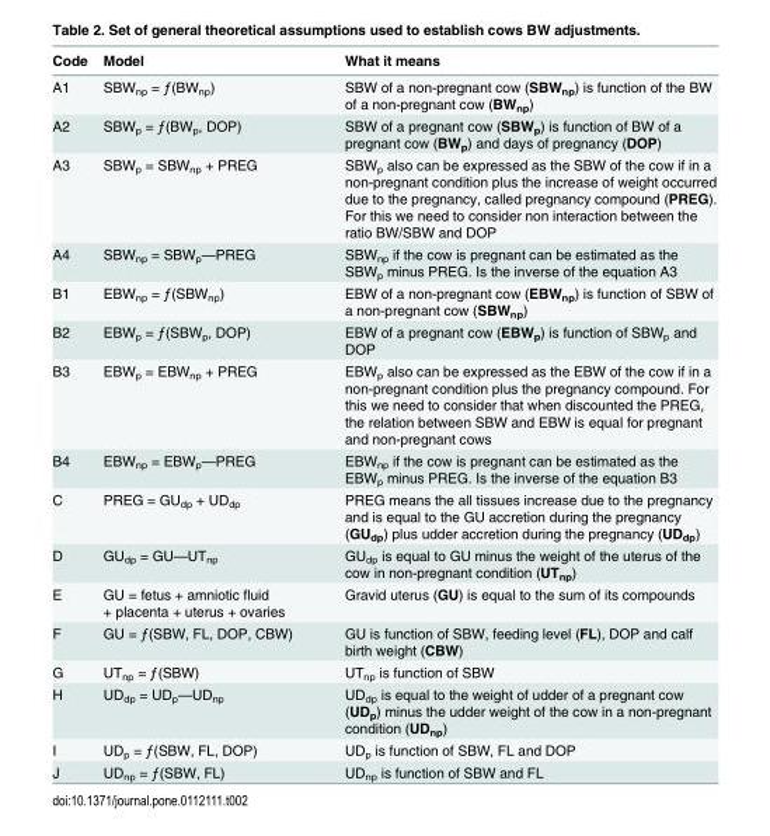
<table><thead><tr><td>Code</td><td>Model</td><td>What it means</td></tr></thead><tbody><tr><td>A1</td><td>SBW<sub>np</sub> = ƒ(BW<sub>np</sub>)</td><td>SBW of a non-pregnant cow (SBW<sub>np</sub>) is function of the BW of a non-pregnant cow (BW<sub>np</sub>)</td></tr><tr><td>A2</td><td>SBW<sub>p</sub> = ƒ(BW<sub>p</sub>, DOP)</td><td>SBW of a pregnant cow (SBW<sub>p</sub>) is function of BW of a pregnant cow (BW<sub>p</sub>) and days of pregnancy (DOP)</td></tr><tr><td>A3</td><td>SBW<sub>p</sub> = SBW<sub>np</sub> + PREG</td><td>SBW<sub>p</sub> also can be expressed as the SBW of the cow if in a non-pregnant condition plus the increase of weight occurred due to the pregnancy, called pregnancy compound (PREG). For this we need to consider non interaction between the ratio BW/SBW and DOP</td></tr><tr><td>A4</td><td>SBW<sub>np</sub> = SBW<sub>p</sub>—PREG</td><td>SBW<sub>np</sub> if the cow is pregnant can be estimated as the SBW<sub>p</sub> minus PREG. Is the inverse of the equation A3</td></tr><tr><td>B1</td><td>EBW<sub>np</sub> = ƒ(SBW<sub>np</sub>)</td><td>EBW of a non-pregnant cow (EBW<sub>np</sub>) is function of SBW of a non-pregnant cow (SBW<sub>np</sub>)</td></tr><tr><td>B2</td><td>EBW<sub>p</sub> = ƒ(SBW<sub>p</sub>, DOP)</td><td>EBW of a pregnant cow (EBW<sub>p</sub>) is function of SBW<sub>p</sub> and DOP</td></tr><tr><td>B3</td><td>EBW<sub>p</sub> = EBW<sub>np</sub> + PREG</td><td>EBW<sub>p</sub> also can be expressed as the EBW of the cow if in a non-pregnant condition plus the pregnancy compound. For this we need to consider that when discounted the PREG, the relation between SBW and EBW is equal for pregnant and non-pregnant cows</td></tr><tr><td>B4</td><td>EBW<sub>np</sub> = EBW<sub>p</sub>—PREG</td><td>EBW<sub>np</sub> if the cow is pregnant can be estimated as the EBW<sub>p</sub> minus PREG. Is the inverse of the equation B3</td></tr><tr><td>C</td><td>PREG = GU<sub>dp</sub> + UD<sub>dp</sub></td><td>PREG means the all tissues increase due to the pregnancy and is equal to the GU accretion during the pregnancy (GU<sub>dp</sub>) plus udder accretion during the pregnancy (UD<sub>dp</sub>)</td></tr><tr><td>D</td><td>GU<sub>dp</sub> = GU—UT<sub>np</sub></td><td>GU<sub>dp</sub> is equal to GU minus the weight of the uterus of the cow in non-pregnant condition (UT<sub>np</sub>)</td></tr><tr><td>E</td><td>GU = fetus + amniotic fluid + placenta + uterus + ovaries</td><td>Gravid uterus (GU) is equal to the sum of its compounds</td></tr><tr><td>F</td><td>GU = ƒ(SBW, FL, DOP, CBW)</td><td>GU is function of SBW, feeding level (FL), DOP and calf birth weight (CBW)</td></tr><tr><td>G</td><td>UT<sub>np</sub> = ƒ(SBW)</td><td>UT<sub>np</sub> is function of SBW</td></tr><tr><td>H</td><td>UD<sub>dp</sub> = UD<sub>p</sub>—UD<sub>np</sub></td><td>UD<sub>dp</sub> is equal to the weight of udder of a pregnant cow (UD<sub>p</sub>) minus the udder weight of the cow in a non-pregnant condition (UD<sub>np</sub>)</td></tr><tr><td>I</td><td>UD<sub>p</sub> = ƒ(SBW, FL, DOP)</td><td>UD<sub>p</sub> is function of SBW, FL and DOP</td></tr><tr><td>J</td><td>UD<sub>np</sub> = ƒ(SBW, FL)</td><td>UD<sub>np</sub> is function of SBW and FL</td></tr></tbody></table>